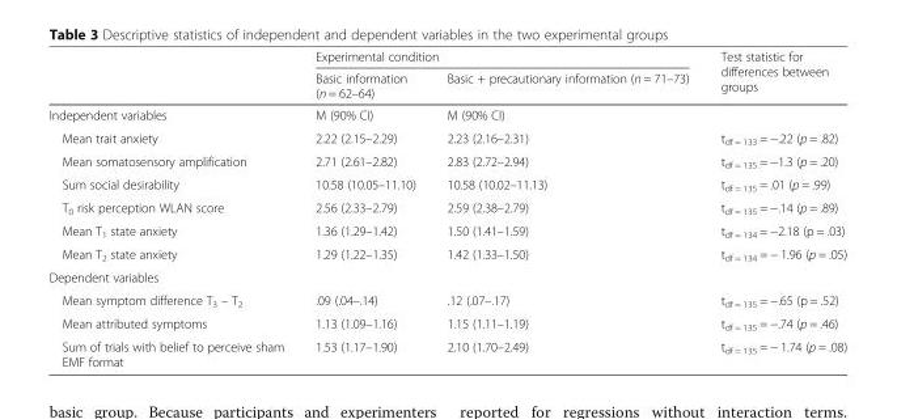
<table><thead><tr><td rowspan="2"></td><td colspan="2">Experimental condition</td><td rowspan="2">Test statistic for differences between groups</td></tr><tr><td>Basic information (n = 62–64)</td><td>Basic + precautionary information (n = 71–73)</td></tr></thead><tbody><tr><td>Independent variables</td><td>M (90% CI)</td><td>M (90% CI)</td><td></td></tr><tr><td>Mean trait anxiety</td><td>2.22 (2.15–2.29)</td><td>2.23 (2.16–2.31)</td><td>t<sub>df = 133</sub> = −.22 (p = .82)</td></tr><tr><td>Mean somatosensory amplification</td><td>2.71 (2.61–2.82)</td><td>2.83 (2.72–2.94)</td><td>t<sub>df = 135</sub> = −1.3 (p = .20)</td></tr><tr><td>Sum social desirability</td><td>10.58 (10.05–11.10)</td><td>10.58 (10.02–11.13)</td><td>t<sub>df = 135</sub> = .01 (p = .99)</td></tr><tr><td>T<sub>0</sub> risk perception WLAN score</td><td>2.56 (2.33–2.79)</td><td>2.59 (2.38–2.79)</td><td>t<sub>df = 135</sub> = −.14 (p = .89)</td></tr><tr><td>Mean T<sub>1</sub> state anxiety</td><td>1.36 (1.29–1.42)</td><td>1.50 (1.41–1.59)</td><td>t<sub>df = 134</sub> = −2.18 (p = .03)</td></tr><tr><td>Mean T<sub>2</sub> state anxiety</td><td>1.29 (1.22–1.35)</td><td>1.42 (1.33–1.50)</td><td>t<sub>df = 134</sub> = − 1.96 (p = .05)</td></tr><tr><td colspan="4">Dependent variables</td></tr><tr><td>Mean symptom difference T<sub>3</sub> – T<sub>2</sub></td><td>.09 (.04–.14)</td><td>.12 (.07–.17)</td><td>t<sub>df = 135</sub> = −.65 (p = .52)</td></tr><tr><td>Mean attributed symptoms</td><td>1.13 (1.09–1.16)</td><td>1.15 (1.11–1.19)</td><td>t<sub>df = 135</sub> = −.74 (p = .46)</td></tr><tr><td>Sum of trials with belief to perceive sham EMF format</td><td>1.53 (1.17–1.90)</td><td>2.10 (1.70–2.49)</td><td>t<sub>df = 135</sub> = − 1.74 (p = .08)</td></tr></tbody></table>